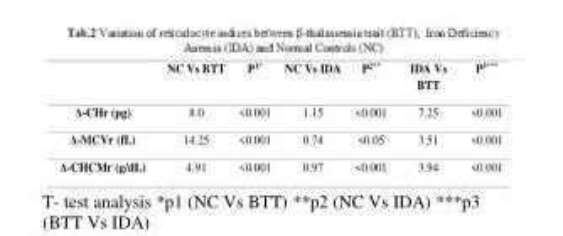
<table><thead><tr><td></td><td>NC Vs BTT</td><td>P<sup>1</sup>*</td><td>NC Vs IDA</td><td>P<sup>2</sup>**</td><td>IDA Vs BTT</td><td>P<sup>3</sup>***</td></tr></thead><tbody><tr><td>Δ-CHr (pg)</td><td>8.0</td><td>&lt;0.001</td><td>1.15</td><td>&lt;0.001</td><td>7.25</td><td>&lt;0.001</td></tr><tr><td>Δ-MCVr (fL)</td><td>14.25</td><td>&lt;0.001</td><td>0.74</td><td>&lt;0.05</td><td>3.51</td><td>&lt;0.001</td></tr><tr><td>Δ-CHCMr (g/dL)</td><td>4.91</td><td>&lt;0.001</td><td>0.97</td><td>&lt;0.001</td><td>3.94</td><td>&lt;0.001</td></tr></tbody></table>